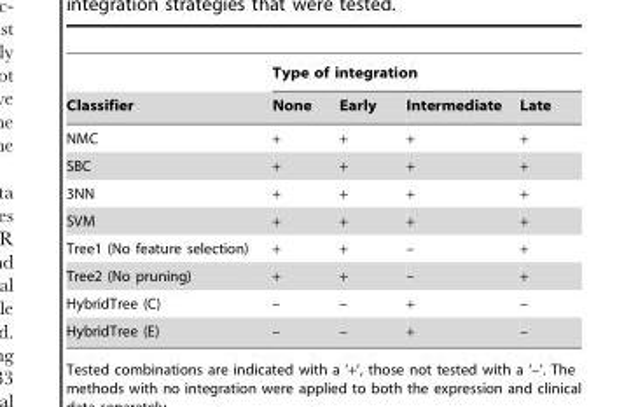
<table><thead><tr><td rowspan="2">Classifier</td><td colspan="4">Type of integration</td></tr><tr><td>None</td><td>Early</td><td>Intermediate</td><td>Late</td></tr></thead><tbody><tr><td>NMC</td><td>+</td><td>+</td><td>+</td><td>+</td></tr><tr><td>SBC</td><td>+</td><td>+</td><td>+</td><td>+</td></tr><tr><td>3NN</td><td>+</td><td>+</td><td>+</td><td>+</td></tr><tr><td>SVM</td><td>+</td><td>+</td><td>+</td><td>+</td></tr><tr><td>Tree1 (No feature selection)</td><td>+</td><td>+</td><td>–</td><td>+</td></tr><tr><td>Tree2 (No pruning)</td><td>+</td><td>+</td><td>–</td><td>+</td></tr><tr><td>HybridTree (C)</td><td>–</td><td>–</td><td>+</td><td>–</td></tr><tr><td>HybridTree (E)</td><td>–</td><td>–</td><td>+</td><td>–</td></tr></tbody></table>